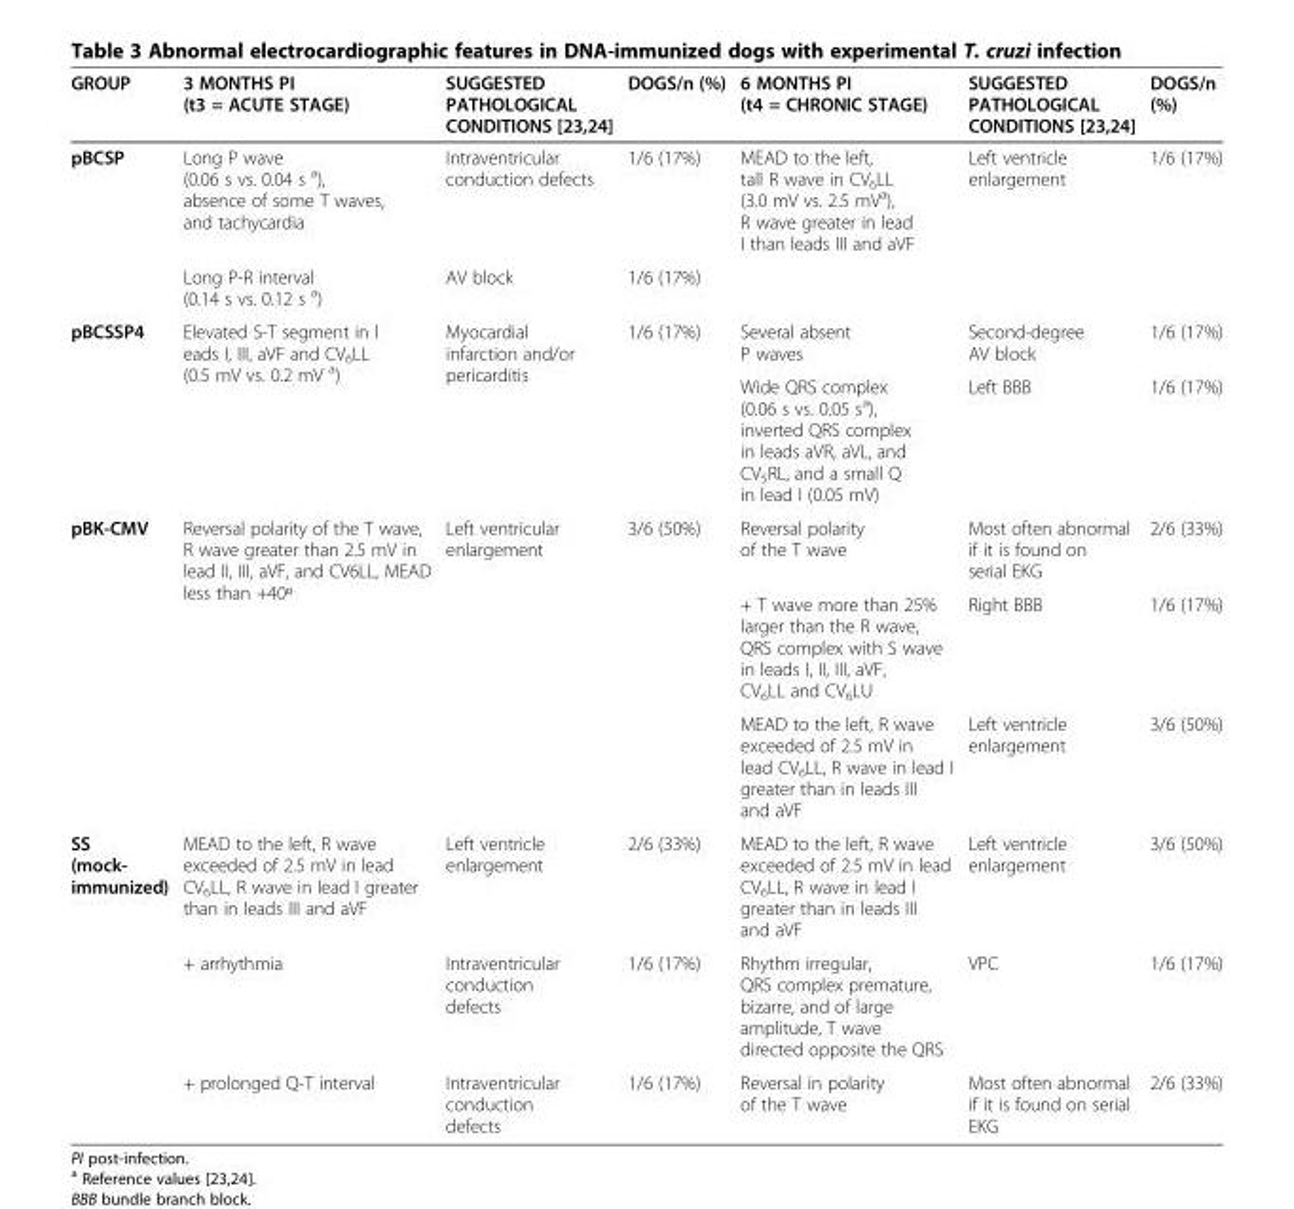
<table><thead><tr><td>GROUP</td><td>3 MONTHS PI (t3 = ACUTE STAGE)</td><td>SUGGESTED PATHOLOGICAL CONDITIONS [23,24]</td><td>DOGS/n (%)</td><td>6 MONTHS PI (t4 = CHRONIC STAGE)</td><td>SUGGESTED PATHOLOGICAL CONDITIONS [23,24]</td><td>DOGS/n (%)</td></tr></thead><tbody><tr><td rowspan="2">pBCSP</td><td>Long P wave (0.06 s vs. 0.04 s <sup>a</sup>), absence of some T waves, and tachycardia</td><td>Intraventricular conduction defects</td><td>1/6 (17%)</td><td>MEAD to the left, tall R wave in CV<sub>6</sub>LL (3.0 mV vs. 2.5 mV<sup>a</sup>), R wave greater in lead I than leads III and aVF</td><td>Left ventricle enlargement</td><td>1/6 (17%)</td></tr><tr><td>Long P-R interval (0.14 s vs. 0.12 s <sup>a</sup>)</td><td>AV block</td><td>1/6 (17%)</td><td></td><td></td><td></td></tr><tr><td rowspan="2">pBCSSP4</td><td rowspan="2">Elevated S-T segment in l eads I, III, aVF and CV<sub>6</sub>LL (0.5 mV vs. 0.2 mV <sup>a</sup>)</td><td rowspan="2">Myocardial infarction and/or pericarditis</td><td rowspan="2">1/6 (17%)</td><td>Several absent P waves</td><td>Second-degree AV block</td><td>1/6 (17%)</td></tr><tr><td>Wide QRS complex (0.06 s vs. 0.05 s<sup>a</sup>), inverted QRS complex in leads aVR, aVL, and CV<sub>5</sub>RL, and a small Q in lead I (0.05 mV)</td><td>Left BBB</td><td>1/6 (17%)</td></tr><tr><td rowspan="3">pBK-CMV</td><td rowspan="3">Reversal polarity of the T wave, R wave greater than 2.5 mV in lead II, III, aVF, and CV6LL, MEAD less than +40º</td><td rowspan="3">Left ventricular enlargement</td><td rowspan="3">3/6 (50%)</td><td>Reversal polarity of the T wave</td><td>Most often abnormal if it is found on serial EKG</td><td>2/6 (33%)</td></tr><tr><td>+ T wave more than 25% larger than the R wave, QRS complex with S wave in leads I, II, III, aVF, CV<sub>6</sub>LL and CV<sub>6</sub>LU</td><td>Right BBB</td><td>1/6 (17%)</td></tr><tr><td>MEAD to the left, R wave exceeded of 2.5 mV in lead CV<sub>6</sub>LL, R wave in lead I greater than in leads III and aVF</td><td>Left ventricle enlargement</td><td>3/6 (50%)</td></tr><tr><td rowspan="3">SS (mock- immunized)</td><td>MEAD to the left, R wave exceeded of 2.5 mV in lead CV<sub>6</sub>LL, R wave in lead I greater than in leads III and aVF</td><td>Left ventricle enlargement</td><td>2/6 (33%)</td><td>MEAD to the left, R wave exceeded of 2.5 mV in lead CV<sub>6</sub>LL, R wave in lead I greater than in leads III and aVF</td><td>Left ventricle enlargement</td><td>3/6 (50%)</td></tr><tr><td>+ arrhythmia</td><td>Intraventricular conduction defects</td><td>1/6 (17%)</td><td>Rhythm irregular, QRS complex premature, bizarre, and of large amplitude, T wave directed opposite the QRS</td><td>VPC</td><td>1/6 (17%)</td></tr><tr><td>+ prolonged Q-T interval</td><td>Intraventricular conduction defects</td><td>1/6 (17%)</td><td>Reversal in polarity of the T wave</td><td>Most often abnormal if it is found on serial EKG</td><td>2/6 (33%)</td></tr></tbody></table>